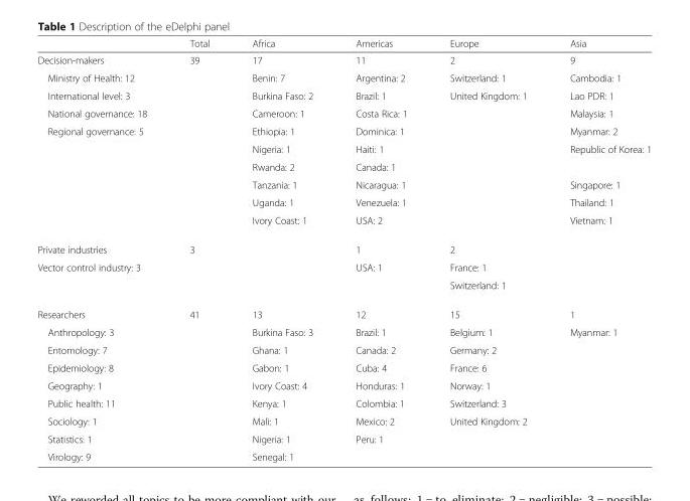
<table><thead><tr><td></td><td>Total</td><td>Africa</td><td>Americas</td><td>Europe</td><td>Asia</td></tr></thead><tbody><tr><td>Decision-makers</td><td>39</td><td>17</td><td>11</td><td>2</td><td>9</td></tr><tr><td>Ministry of Health: 12</td><td></td><td>Benin: 7</td><td>Argentina: 2</td><td>Switzerland: 1</td><td>Cambodia: 1</td></tr><tr><td>International level: 3</td><td></td><td>Burkina Faso: 2</td><td>Brazil: 1</td><td>United Kingdom: 1</td><td>Lao PDR: 1</td></tr><tr><td>National governance: 18</td><td></td><td>Cameroon: 1</td><td>Costa Rica: 1</td><td></td><td>Malaysia: 1</td></tr><tr><td rowspan="6">Regional governance: 5</td><td></td><td>Ethiopia: 1</td><td>Dominica: 1</td><td></td><td>Myanmar: 2</td></tr><tr><td></td><td>Nigeria: 1</td><td>Haiti: 1</td><td></td><td>Republic of Korea: 1</td></tr><tr><td></td><td>Rwanda: 2</td><td>Canada: 1</td><td></td><td></td></tr><tr><td></td><td>Tanzania: 1</td><td>Nicaragua: 1</td><td></td><td>Singapore: 1</td></tr><tr><td></td><td>Uganda: 1</td><td>Venezuela: 1</td><td></td><td>Thailand: 1</td></tr><tr><td></td><td>Ivory Coast: 1</td><td>USA: 2</td><td></td><td>Vietnam: 1</td></tr><tr><td>Private industries</td><td>3</td><td></td><td>1</td><td>2</td><td></td></tr><tr><td rowspan="2">Vector control industry: 3</td><td></td><td></td><td>USA: 1</td><td>France: 1</td><td></td></tr><tr><td></td><td></td><td></td><td>Switzerland: 1</td><td></td></tr><tr><td>Researchers</td><td>41</td><td>13</td><td>12</td><td>15</td><td>1</td></tr><tr><td>Anthropology: 3</td><td></td><td>Burkina Faso: 3</td><td>Brazil: 1</td><td>Belgium: 1</td><td>Myanmar: 1</td></tr><tr><td>Entomology: 7</td><td></td><td>Ghana: 1</td><td>Canada: 2</td><td>Germany: 2</td><td></td></tr><tr><td>Epidemiology: 8</td><td></td><td>Gabon: 1</td><td>Cuba: 4</td><td>France: 6</td><td></td></tr><tr><td>Geography: 1</td><td></td><td>Ivory Coast: 4</td><td>Honduras: 1</td><td>Norway: 1</td><td></td></tr><tr><td>Public health: 11</td><td></td><td>Kenya: 1</td><td>Colombia: 1</td><td>Switzerland: 3</td><td></td></tr><tr><td>Sociology: 1</td><td></td><td>Mali: 1</td><td>Mexico: 2</td><td>United Kingdom: 2</td><td></td></tr><tr><td>Statistics: 1</td><td></td><td>Nigeria: 1</td><td>Peru: 1</td><td></td><td></td></tr><tr><td>Virology: 9</td><td></td><td>Senegal: 1</td><td></td><td></td><td></td></tr></tbody></table>